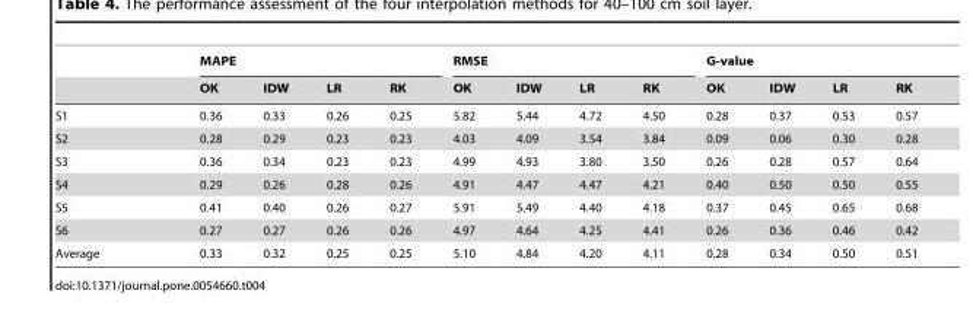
<table><thead><tr><td rowspan="2"></td><td colspan="4">MAPE</td><td colspan="4">RMSE</td><td colspan="4">G-value</td></tr><tr><td>OK</td><td>IDW</td><td>LR</td><td>RK</td><td>OK</td><td>IDW</td><td>LR</td><td>RK</td><td>OK</td><td>IDW</td><td>LR</td><td>RK</td></tr></thead><tbody><tr><td>S1</td><td>0.36</td><td>0.33</td><td>0.26</td><td>0.25</td><td>5.82</td><td>5.44</td><td>4.72</td><td>4.50</td><td>0.28</td><td>0.37</td><td>0.53</td><td>0.57</td></tr><tr><td>S2</td><td>0.28</td><td>0.29</td><td>0.23</td><td>0.23</td><td>4.03</td><td>4.09</td><td>3.54</td><td>3.84</td><td>0.09</td><td>0.06</td><td>0.30</td><td>0.28</td></tr><tr><td>S3</td><td>0.36</td><td>0.34</td><td>0.23</td><td>0.23</td><td>4.99</td><td>4.93</td><td>3.80</td><td>3.50</td><td>0.26</td><td>0.28</td><td>0.57</td><td>0.64</td></tr><tr><td>S4</td><td>0.29</td><td>0.26</td><td>0.28</td><td>0.26</td><td>4.91</td><td>4.47</td><td>4.47</td><td>4.21</td><td>0.40</td><td>0.50</td><td>0.50</td><td>0.55</td></tr><tr><td>S5</td><td>0.41</td><td>0.40</td><td>0.26</td><td>0.27</td><td>5.91</td><td>5.49</td><td>4.40</td><td>4.18</td><td>0.37</td><td>0.45</td><td>0.65</td><td>0.68</td></tr><tr><td>S6</td><td>0.27</td><td>0.27</td><td>0.26</td><td>0.26</td><td>4.97</td><td>4.64</td><td>4.25</td><td>4.41</td><td>0.26</td><td>0.36</td><td>0.46</td><td>0.42</td></tr><tr><td>Average</td><td>0.33</td><td>0.32</td><td>0.25</td><td>0.25</td><td>5.10</td><td>4.84</td><td>4.20</td><td>4.11</td><td>0.28</td><td>0.34</td><td>0.50</td><td>0.51</td></tr></tbody></table>